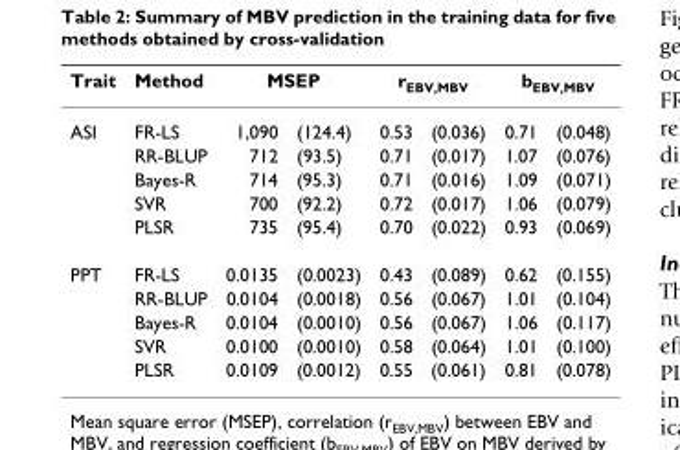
<table><thead><tr><td rowspan="2">Trait ASI</td><td rowspan="2">Method FR-LS</td><td colspan="2">MSEP</td><td colspan="2">r<sub>EBV,MBV</sub></td><td colspan="2">b<sub>EBV,MBV</sub></td></tr><tr><td>1,090</td><td>(124.4)</td><td>0.53</td><td>(0.036)</td><td>0.71</td><td>(0.048)</td></tr></thead><tbody><tr><td></td><td>RR-BLUP</td><td>712</td><td>(93.5)</td><td>0.71</td><td>(0.017)</td><td>1.07</td><td>(0.076)</td></tr><tr><td></td><td>Bayes-R</td><td>714</td><td>(95.3)</td><td>0.71</td><td>(0.016)</td><td>1.09</td><td>(0.071)</td></tr><tr><td></td><td>SVR</td><td>700</td><td>(92.2)</td><td>0.72</td><td>(0.017)</td><td>1.06</td><td>(0.079)</td></tr><tr><td></td><td>PLSR</td><td>735</td><td>(95.4)</td><td>0.70</td><td>(0.022)</td><td>0.93</td><td>(0.069)</td></tr><tr><td rowspan="5">PPT</td><td>FR-LS</td><td>0.0135</td><td>(0.0023)</td><td>0.43</td><td>(0.089)</td><td>0.62</td><td>(0.155)</td></tr><tr><td>RR-BLUP</td><td>0.0104</td><td>(0.0018)</td><td>0.56</td><td>(0.067)</td><td>1.01</td><td>(0.104)</td></tr><tr><td>Bayes-R</td><td>0.0104</td><td>(0.0010)</td><td>0.56</td><td>(0.067)</td><td>1.06</td><td>(0.117)</td></tr><tr><td>SVR</td><td>0.0100</td><td>(0.0010)</td><td>0.58</td><td>(0.064)</td><td>1.01</td><td>(0.100)</td></tr><tr><td>PLSR</td><td>0.0109</td><td>(0.0012)</td><td>0.55</td><td>(0.061)</td><td>0.81</td><td>(0.078)</td></tr></tbody></table>